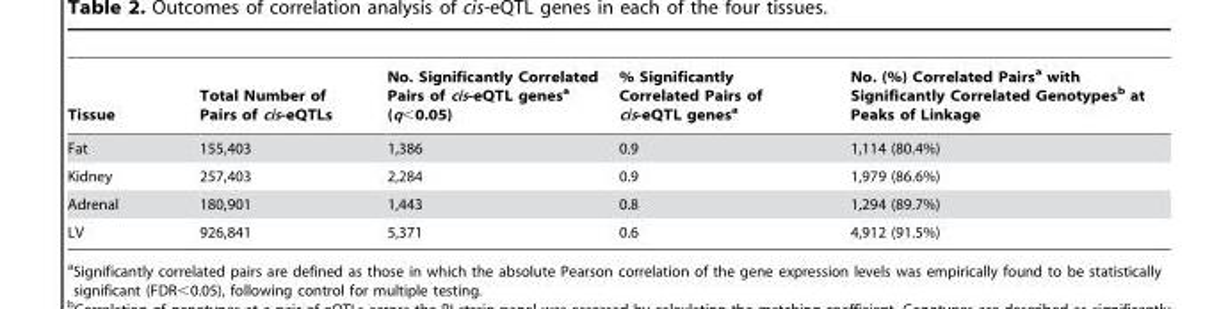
<table><thead><tr><td>Tissue</td><td>Total Number of Pairs of cis-eQTLs</td><td>No. Significantly Correlated Pairs of cis-eQTL genes<sup>a</sup> (q&lt;0.05)</td><td>% Significantly Correlated Pairs of cis-eQTL genes<sup>a</sup></td><td>No. (%) Correlated Pairs<sup>a</sup> with Significantly Correlated Genotypes<sup>b</sup> at Peaks of Linkage</td></tr></thead><tbody><tr><td>Fat</td><td>155,403</td><td>1,386</td><td>0.9</td><td>1,114 (80.4%)</td></tr><tr><td>Kidney</td><td>257,403</td><td>2,284</td><td>0.9</td><td>1,979 (86.6%)</td></tr><tr><td>Adrenal</td><td>180,901</td><td>1,443</td><td>0.8</td><td>1,294 (89.7%)</td></tr><tr><td>LV</td><td>926,841</td><td>5,371</td><td>0.6</td><td>4,912 (91.5%)</td></tr></tbody></table>